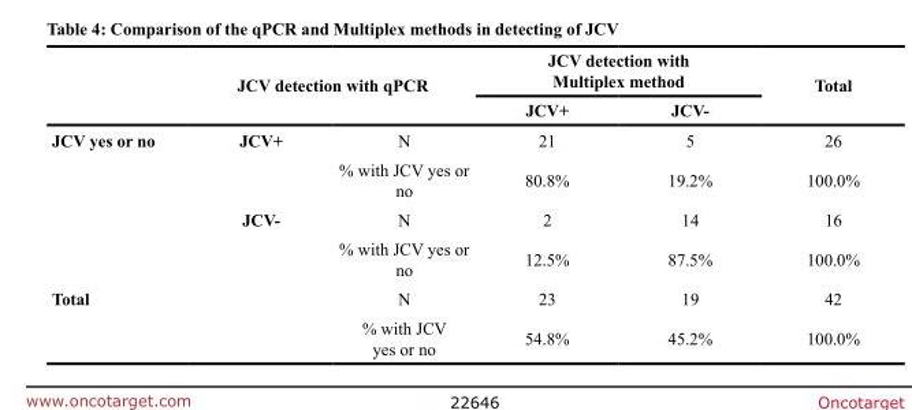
<table><thead><tr><td rowspan="3">JCV yes or no</td><td rowspan="2" colspan="2">JCV detection with qPCR</td><td colspan="2">JCV detection with Multiplex method</td><td rowspan="3">Total 26</td></tr><tr><td rowspan="2">JCV+ 21</td><td rowspan="2">JCV- 5</td></tr><tr><td>JCV+</td><td>N</td></tr></thead><tbody><tr><td></td><td></td><td>% with JCV yes or no</td><td>80.8%</td><td>19.2%</td><td>100.0%</td></tr><tr><td></td><td>JCV-</td><td>N</td><td>2</td><td>14</td><td>16</td></tr><tr><td></td><td></td><td>% with JCV yes or no</td><td>12.5%</td><td>87.5%</td><td>100.0%</td></tr><tr><td rowspan="2">Total</td><td></td><td>N</td><td>23</td><td>19</td><td>42</td></tr><tr><td></td><td>% with JCV yes or no</td><td>54.8%</td><td>45.2%</td><td>100.0%</td></tr></tbody></table>